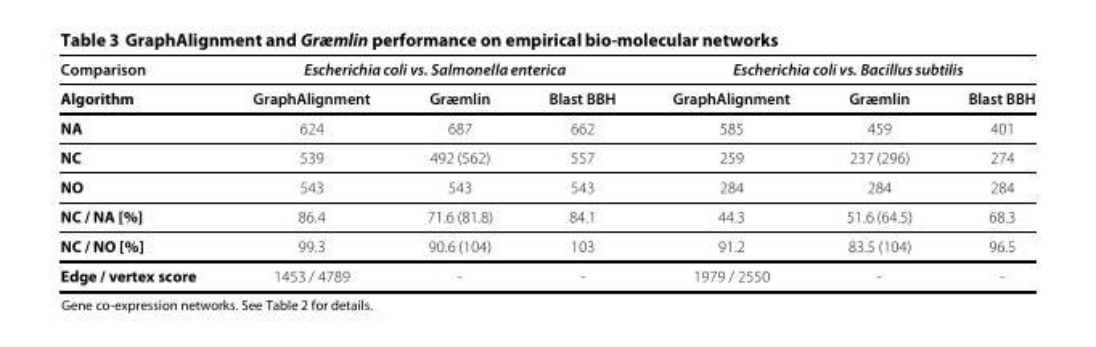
<table><thead><tr><td rowspan="2">Comparison Algorithm</td><td colspan="3">Escherichiacoli vs. Salmonella enterica</td><td colspan="3">Escherichia coli vs. Bacillus subtilis</td></tr><tr><td>GraphAlignment</td><td>Græmlin</td><td>Blast BBH</td><td>GraphAlignment</td><td>Græmlin</td><td>Blast BBH</td></tr></thead><tbody><tr><td>NA</td><td>624</td><td>687</td><td>662</td><td>585</td><td>459</td><td>401</td></tr><tr><td>NC</td><td>539</td><td>492 (562)</td><td>557</td><td>259</td><td>237 (296)</td><td>274</td></tr><tr><td>NO</td><td>543</td><td>543</td><td>543</td><td>284</td><td>284</td><td>284</td></tr><tr><td>NC / NA [%]</td><td>86.4</td><td>71.6 (81.8)</td><td>84.1</td><td>44.3</td><td>51.6 (64.5)</td><td>68.3</td></tr><tr><td>NC / NO [%]</td><td>99.3</td><td>90.6 (104)</td><td>103</td><td>91.2</td><td>83.5 (104)</td><td>96.5</td></tr><tr><td>Edge / vertex score</td><td>1453 / 4789</td><td>-</td><td>-</td><td>1979 / 2550</td><td>-</td><td>-</td></tr></tbody></table>